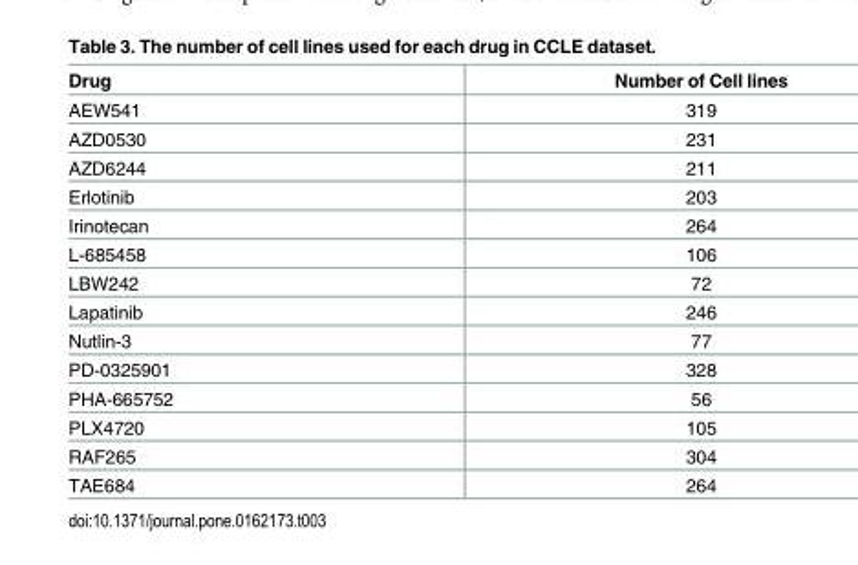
<table><thead><tr><td>Drug</td><td>Number of Cell lines</td></tr></thead><tbody><tr><td>AEW541</td><td>319</td></tr><tr><td>AZD0530</td><td>231</td></tr><tr><td>AZD6244</td><td>211</td></tr><tr><td>Erlotinib</td><td>203</td></tr><tr><td>Irinotecan</td><td>264</td></tr><tr><td>L-685458</td><td>106</td></tr><tr><td>LBW242</td><td>72</td></tr><tr><td>Lapatinib</td><td>246</td></tr><tr><td>Nutlin-3</td><td>77</td></tr><tr><td>PD-0325901</td><td>328</td></tr><tr><td>PHA-665752</td><td>56</td></tr><tr><td>PLX4720</td><td>105</td></tr><tr><td>RAF265</td><td>304</td></tr><tr><td>TAE684</td><td>264</td></tr></tbody></table>